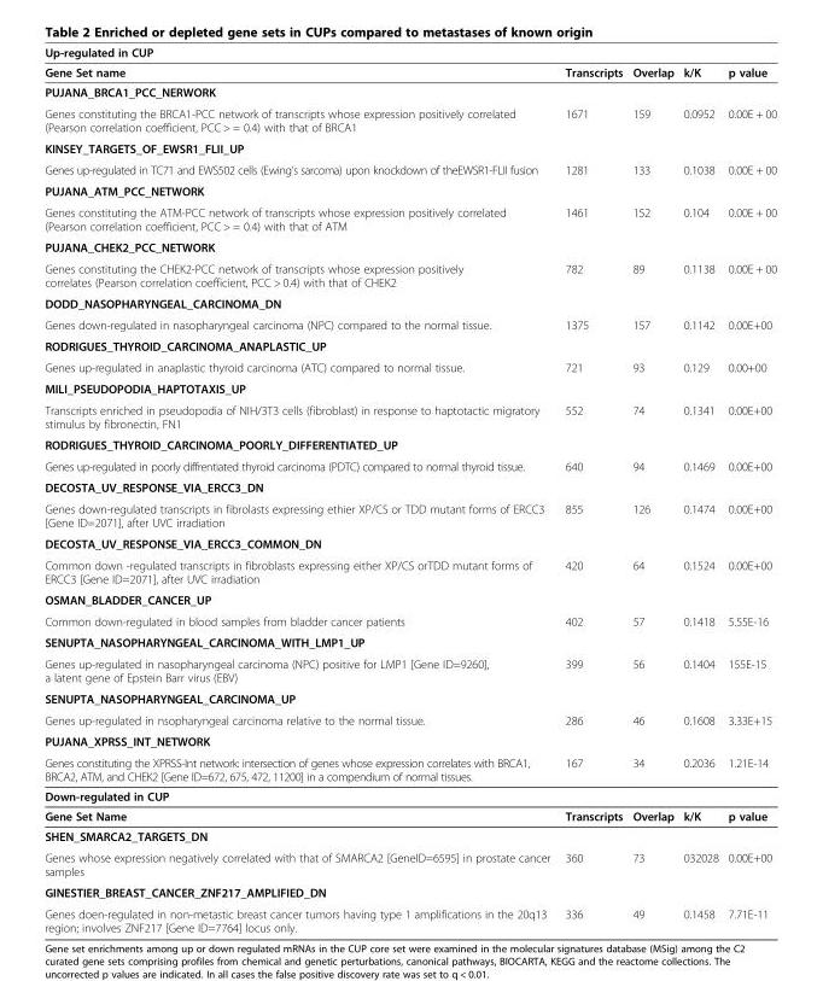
<table><thead><tr><td colspan="5">Up-regulated in CUP</td></tr><tr><td>Gene Set name</td><td>Transcripts</td><td>Overlap</td><td>k/K</td><td>p value</td></tr></thead><tbody><tr><td colspan="5">PUJANA_BRCA1_PCC_NERWORK</td></tr><tr><td>Genes constituting the BRCA1-PCC network of transcripts whose expression positively correlated (Pearson correlation coefficient, PCC &gt; = 0.4) with that of BRCA1</td><td>1671</td><td>159</td><td>0.0952</td><td>0.00E + 00</td></tr><tr><td colspan="5">KINSEY_TARGETS_OF_EWSR1_FLII_UP</td></tr><tr><td>Genes up-regulated in TC71 and EWS502 cells (Ewing’s sarcoma) upon knockdown of theEWSR1-FLII fusion</td><td>1281</td><td>133</td><td>0.1038</td><td>0.00E + 00</td></tr><tr><td colspan="5">PUJANA_ATM_PCC_NETWORK</td></tr><tr><td>Genes constituting the ATM-PCC network of transcripts whose expression positively correlated (Pearson correlation coefficient, PCC &gt; = 0.4) with that of ATM</td><td>1461</td><td>152</td><td>0.104</td><td>0.00E + 00</td></tr><tr><td colspan="5">PUJANA_CHEK2_PCC_NETWORK</td></tr><tr><td>Genes constituting the CHEK2-PCC network of transcripts whose expression positively correlates (Pearson correlation coefficient, PCC &gt; 0.4) with that of CHEK2</td><td>782</td><td>89</td><td>0.1138</td><td>0.00E + 00</td></tr><tr><td colspan="5">DODD_NASOPHARYNGEAL_CARCINOMA_DN</td></tr><tr><td>Genes down-regulated in nasopharyngeal carcinoma (NPC) compared to the normal tissue.</td><td>1375</td><td>157</td><td>0.1142</td><td>0.00E+00</td></tr><tr><td colspan="5">RODRIGUES_THYROID_CARCINOMA_ANAPLASTIC_UP</td></tr><tr><td>Genes up-regulated in anaplastic thyroid carcinoma (ATC) compared to normal tissue.</td><td>721</td><td>93</td><td>0.129</td><td>0.00+00</td></tr><tr><td colspan="5">MILI_PSEUDOPODIA_HAPTOTAXIS_UP</td></tr><tr><td>Transcripts enriched in pseudopodia of NIH/3T3 cells (fibroblast) in response to haptotactic migratory stimulus by fibronectin, FN1</td><td>552</td><td>74</td><td>0.1341</td><td>0.00E+00</td></tr><tr><td colspan="5">RODRIGUES_THYROID_CARCINOMA_POORLY_DIFFERENTIATED_UP</td></tr><tr><td>Genes up-regulated in poorly diffrentiated thyroid carcinoma (PDTC) compared to normal thyroid tissue.</td><td>640</td><td>94</td><td>0.1469</td><td>0.00E+00</td></tr><tr><td colspan="5">DECOSTA_UV_RESPONSE_VIA_ERCC3_DN</td></tr><tr><td>Genes down-regulated transcripts in fibrolasts expressing ethier XP/CS or TDD mutant forms of ERCC3 [Gene ID=2071], after UVC irradiation</td><td>855</td><td>126</td><td>0.1474</td><td>0.00E+00</td></tr><tr><td colspan="5">DECOSTA_UV_RESPONSE_VIA_ERCC3_COMMON_DN</td></tr><tr><td>Common down -regulated transcripts in fibroblasts expressing either XP/CS orTDD mutant forms of ERCC3 [Gene ID=2071], after UVC irradiation</td><td>420</td><td>64</td><td>0.1524</td><td>0.00E+00</td></tr><tr><td colspan="5">OSMAN_BLADDER_CANCER_UP</td></tr><tr><td>Common down-regulated in blood samples from bladder cancer patients</td><td>402</td><td>57</td><td>0.1418</td><td>5.55E-16</td></tr><tr><td colspan="5">SENUPTA_NASOPHARYNGEAL_CARCINOMA_WITH_LMP1_UP</td></tr><tr><td>Genes up-regulated in nasopharyngeal carcinoma (NPC) positive for LMP1 [Gene ID=9260], a latent gene of Epstein Barr virus (EBV)</td><td>399</td><td>56</td><td>0.1404</td><td>155E-15</td></tr><tr><td colspan="5">SENUPTA_NASOPHARYNGEAL_CARCINOMA_UP</td></tr><tr><td>Genes up-regulated in nsopharyngeal carcinoma relative to the normal tissue.</td><td>286</td><td>46</td><td>0.1608</td><td>3.33E+15</td></tr><tr><td colspan="5">PUJANA_XPRSS_INT_NETWORK</td></tr><tr><td>Genes constituting the XPRSS-Int network: intersection of genes whose expression correlates with BRCA1, BRCA2, ATM, and CHEK2 [Gene ID=672, 675, 472, 11200] in a compendium of normal tissues.</td><td>167</td><td>34</td><td>0.2036</td><td>1.21E-14</td></tr><tr><td colspan="5">Down-regulated in CUP</td></tr><tr><td>Gene Set Name</td><td>Transcripts</td><td>Overlap</td><td>k/K</td><td>p value</td></tr><tr><td colspan="5">SHEN_SMARCA2_TARGETS_DN</td></tr><tr><td>Genes whose expression negatively correlated with that of SMARCA2 [GeneID=6595] in prostate cancer samples</td><td>360</td><td>73</td><td>032028</td><td>0.00E+00</td></tr><tr><td colspan="5">GINESTIER_BREAST_CANCER_ZNF217_AMPLIFIED_DN</td></tr><tr><td>Genes doen-regulated in non-metastic breast cancer tumors having type 1 amplifications in the 20q13 region; involves ZNF217 [Gene ID=7764] locus only.</td><td>336</td><td>49</td><td>0.1458</td><td>7.71E-11</td></tr></tbody></table>